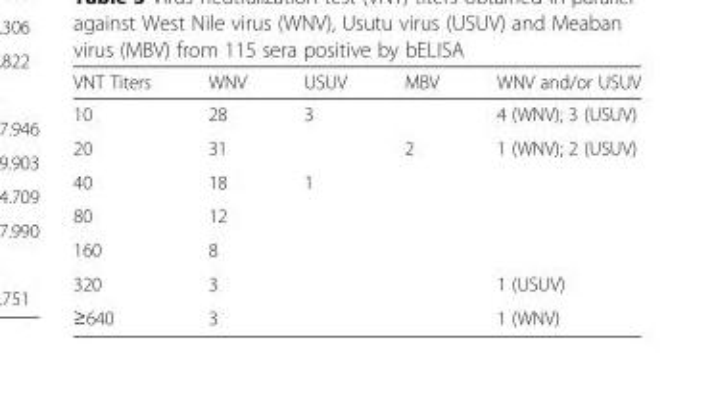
<table><thead><tr><td>VNT Titers</td><td>WNV</td><td>USUV</td><td>MBV</td><td>WNV and/or USUV</td></tr></thead><tbody><tr><td>10</td><td>28</td><td>3</td><td></td><td>4 (WNV); 3 (USUV)</td></tr><tr><td>20</td><td>31</td><td></td><td>2</td><td>1 (WNV); 2 (USUV)</td></tr><tr><td>40</td><td>18</td><td>1</td><td></td><td></td></tr><tr><td>80</td><td>12</td><td></td><td></td><td></td></tr><tr><td>160</td><td>8</td><td></td><td></td><td></td></tr><tr><td>320</td><td>3</td><td></td><td></td><td>1 (USUV)</td></tr><tr><td>≥640</td><td>3</td><td></td><td></td><td>1 (WNV)</td></tr></tbody></table>